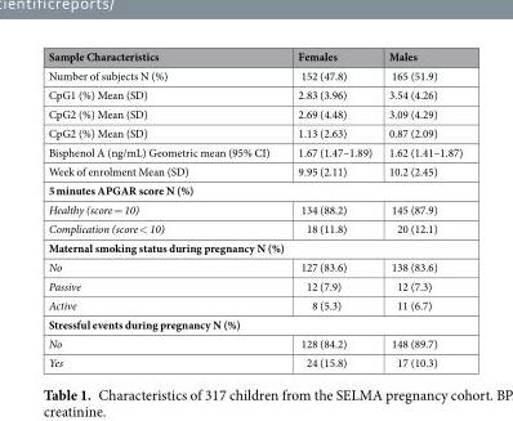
<table><thead><tr><td>Sample Characteristics</td><td>Females</td><td>Males</td></tr></thead><tbody><tr><td>Number of subjects N (%)</td><td>152 (47.8)</td><td>165 (51.9)</td></tr><tr><td>CpG1 (%) Mean (SD)</td><td>2.83 (3.96)</td><td>3.54 (4.26)</td></tr><tr><td>CpG2 (%) Mean (SD)</td><td>2.69 (4.48)</td><td>3.09 (4.29)</td></tr><tr><td>CpG2 (%) Mean (SD)</td><td>1.13 (2.63)</td><td>0.87 (2.09)</td></tr><tr><td>Bisphenol A (ng/mL) Geometric mean (95% CI)</td><td>1.67 (1.47–1.89)</td><td>1.62 (1.41–1.87)</td></tr><tr><td>Week of enrolment Mean (SD)</td><td>9.95 (2.11)</td><td>10.2 (2.45)</td></tr><tr><td colspan="3">5 minutes APGAR score N (%)</td></tr><tr><td>Healthy (score = 10)</td><td>134 (88.2)</td><td>145 (87.9)</td></tr><tr><td>Complication (score &lt; 10)</td><td>18 (11.8)</td><td>20 (12.1)</td></tr><tr><td colspan="3">Maternal smoking status during pregnancy N (%)</td></tr><tr><td>No</td><td>127 (83.6)</td><td>138 (83.6)</td></tr><tr><td>Passive</td><td>12 (7.9)</td><td>12 (7.3)</td></tr><tr><td>Active</td><td>8 (5.3)</td><td>11 (6.7)</td></tr><tr><td colspan="3">Stressful events during pregnancy N (%)</td></tr><tr><td>No</td><td>128 (84.2)</td><td>148 (89.7)</td></tr><tr><td>Yes</td><td>24 (15.8)</td><td>17 (10.3)</td></tr></tbody></table>